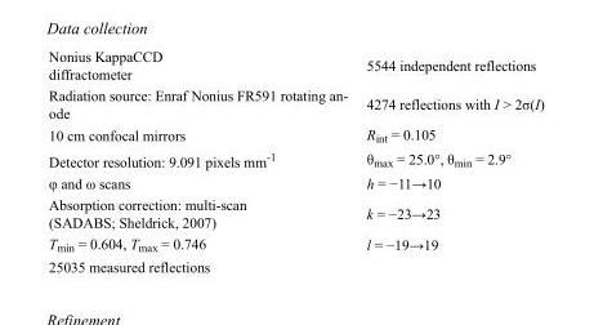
<table><tbody><tr><td>Nonius KappaCCD diffractometer</td><td>5544 independent reflections</td></tr><tr><td>Radiation source: Enraf Nonius FR591 rotating an- ode</td><td>4274 reflections with I &gt; 2σ(I)</td></tr><tr><td>10 cm confocal mirrors</td><td>R<sub>int</sub> = 0.105</td></tr><tr><td>Detector resolution: 9.091 pixels mm<sup>-1</sup></td><td>θ<sub>max</sub> = 25.0°, θ<sub>min</sub> = 2.9°</td></tr><tr><td>φ and ω scans</td><td>h = −11→10</td></tr><tr><td>Absorption correction: multi-scan (SADABS; Sheldrick, 2007)</td><td>k = −23→23</td></tr><tr><td>T<sub>min</sub> = 0.604, T<sub>max</sub> = 0.746</td><td>l = −19→19</td></tr><tr><td>25035 measured reflections</td><td></td></tr></tbody></table>